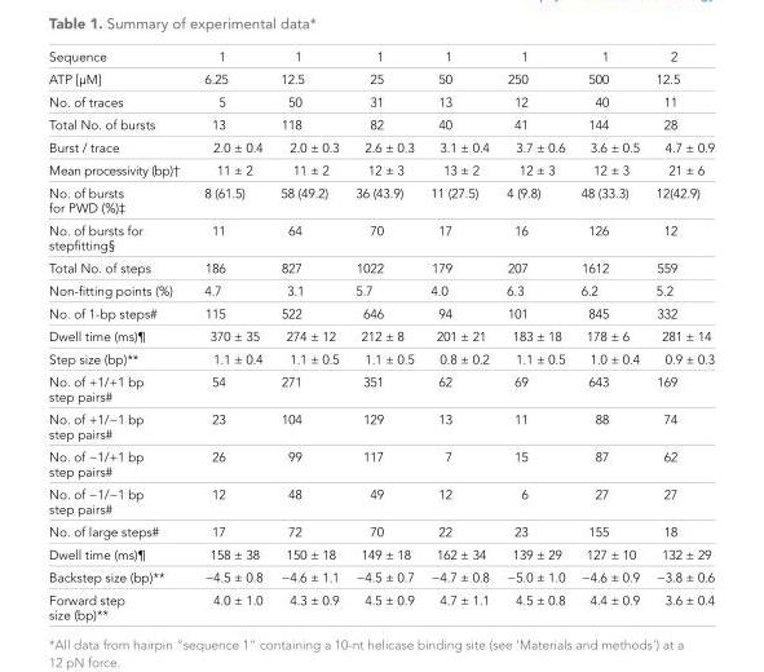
<table><tbody><tr><td>Sequence</td><td>1</td><td>1</td><td>1</td><td>1</td><td>1</td><td>1</td><td>2</td></tr><tr><td>ATP [µM]</td><td>6.25</td><td>12.5</td><td>25</td><td>50</td><td>250</td><td>500</td><td>12.5</td></tr><tr><td>No. of traces</td><td>5</td><td>50</td><td>31</td><td>13</td><td>12</td><td>40</td><td>11</td></tr><tr><td>Total No. of bursts</td><td>13</td><td>118</td><td>82</td><td>40</td><td>41</td><td>144</td><td>28</td></tr><tr><td>Burst / trace</td><td>2.0 ± 0.4</td><td>2.0 ± 0.3</td><td>2.6 ± 0.3</td><td>3.1 ± 0.4</td><td>3.7 ± 0.6</td><td>3.6 ± 0.5</td><td>4.7 ± 0.9</td></tr><tr><td>Mean processivity (bp)†</td><td>11 ± 2</td><td>11 ± 2</td><td>12 ± 3</td><td>13 ± 2</td><td>12 ± 3</td><td>12 ± 3</td><td>21 ± 6</td></tr><tr><td>No. of bursts for PWD (%)‡</td><td>8 (61.5)</td><td>58 (49.2)</td><td>36 (43.9)</td><td>11 (27.5)</td><td>4 (9.8)</td><td>48 (33.3)</td><td>12(42.9)</td></tr><tr><td>No. of bursts for stepfitting§</td><td>11</td><td>64</td><td>70</td><td>17</td><td>16</td><td>126</td><td>12</td></tr><tr><td>Total No. of steps</td><td>186</td><td>827</td><td>1022</td><td>179</td><td>207</td><td>1612</td><td>559</td></tr><tr><td>Non-fitting points (%)</td><td>4.7</td><td>3.1</td><td>5.7</td><td>4.0</td><td>6.3</td><td>6.2</td><td>5.2</td></tr><tr><td>No. of 1-bp steps#</td><td>115</td><td>522</td><td>646</td><td>94</td><td>101</td><td>845</td><td>332</td></tr><tr><td>Dwell time (ms)¶</td><td>370 ± 35</td><td>274 ± 12</td><td>212 ± 8</td><td>201 ± 21</td><td>183 ± 18</td><td>178 ± 6</td><td>281 ± 14</td></tr><tr><td>Step size (bp)**</td><td>1.1 ± 0.4</td><td>1.1 ± 0.5</td><td>1.1 ± 0.5</td><td>0.8 ± 0.2</td><td>1.1 ± 0.5</td><td>1.0 ± 0.4</td><td>0.9 ± 0.3</td></tr><tr><td>No. of +1/+1 bp step pairs#</td><td>54</td><td>271</td><td>351</td><td>62</td><td>69</td><td>643</td><td>169</td></tr><tr><td>No. of +1/−1 bp step pairs#</td><td>23</td><td>104</td><td>129</td><td>13</td><td>11</td><td>88</td><td>74</td></tr><tr><td>No. of −1/+1 bp step pairs#</td><td>26</td><td>99</td><td>117</td><td>7</td><td>15</td><td>87</td><td>62</td></tr><tr><td>No. of −1/−1 bp step pairs#</td><td>12</td><td>48</td><td>49</td><td>12</td><td>6</td><td>27</td><td>27</td></tr><tr><td>No. of large steps#</td><td>17</td><td>72</td><td>70</td><td>22</td><td>23</td><td>155</td><td>18</td></tr><tr><td>Dwell time (ms)¶</td><td>158 ± 38</td><td>150 ± 18</td><td>149 ± 18</td><td>162 ± 34</td><td>139 ± 29</td><td>127 ± 10</td><td>132 ± 29</td></tr><tr><td>Backstep size (bp)**</td><td>−4.5 ± 0.8</td><td>−4.6 ± 1.1</td><td>−4.5 ± 0.7</td><td>−4.7 ± 0.8</td><td>−5.0 ± 1.0</td><td>−4.6 ± 0.9</td><td>−3.8 ± 0.6</td></tr><tr><td>Forward step size (bp)**</td><td>4.0 ± 1.0</td><td>4.3 ± 0.9</td><td>4.5 ± 0.9</td><td>4.7 ± 1.1</td><td>4.5 ± 0.8</td><td>4.4 ± 0.9</td><td>3.6 ± 0.4</td></tr></tbody></table>